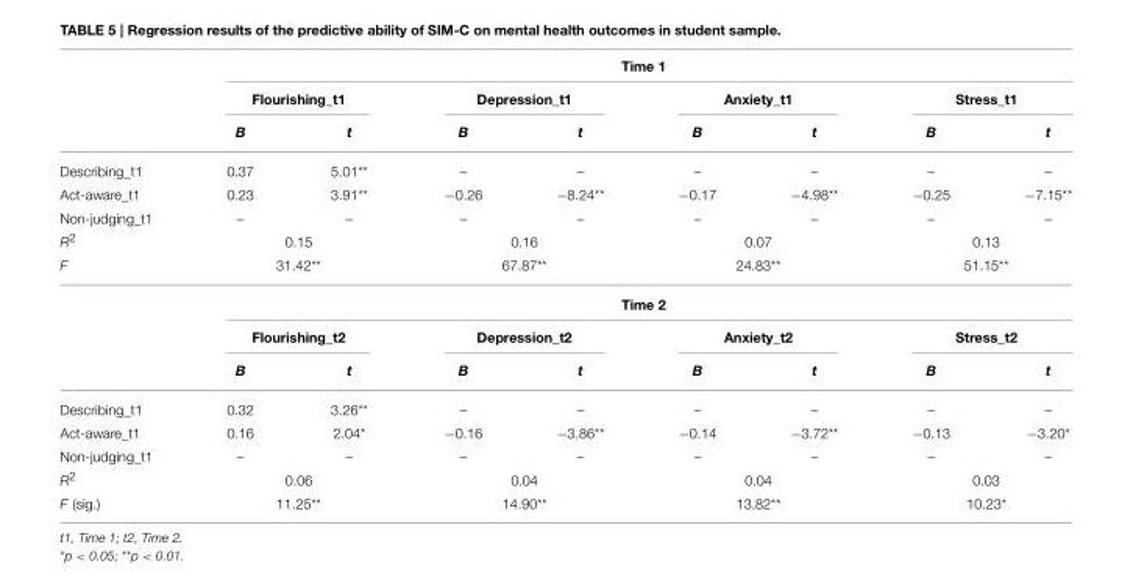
<table><thead><tr><td rowspan="3"></td><td colspan="8">Time 1</td></tr><tr><td colspan="2">Flourishing_t1</td><td colspan="2">Depression_t1</td><td colspan="2">Anxiety_t1</td><td colspan="2">Stress_t1</td></tr><tr><td>B</td><td>t</td><td>B</td><td>t</td><td>B</td><td>t</td><td>B</td><td>t</td></tr></thead><tbody><tr><td>Describing_t1</td><td>0.37</td><td>5.01**</td><td>–</td><td>–</td><td>–</td><td>–</td><td>–</td><td>–</td></tr><tr><td>Act-aware_t1</td><td>0.23</td><td>3.91**</td><td>−0.26</td><td>−8.24**</td><td>−0.17</td><td>−4.98**</td><td>−0.25</td><td>−7.15**</td></tr><tr><td>Non-judging_t1</td><td>–</td><td>–</td><td>–</td><td>–</td><td>–</td><td>–</td><td>–</td><td>–</td></tr><tr><td>R<sup>2</sup></td><td colspan="2">0.15</td><td colspan="2">0.16</td><td colspan="2">0.07</td><td colspan="2">0.13</td></tr><tr><td rowspan="4">F</td><td colspan="2">31.42**</td><td colspan="2">67.87**</td><td colspan="2">24.83**</td><td colspan="2">51.15**</td></tr><tr><td colspan="8">Time 2</td></tr><tr><td colspan="2">Flourishing_t2</td><td colspan="2">Depression_t2</td><td colspan="2">Anxiety_t2</td><td colspan="2">Stress_t2</td></tr><tr><td>B</td><td>t</td><td>B</td><td>t</td><td>B</td><td>t</td><td>B</td><td>t</td></tr><tr><td>Describing_t1</td><td>0.32</td><td>3.26**</td><td>–</td><td>–</td><td>–</td><td>–</td><td>–</td><td>–</td></tr><tr><td>Act-aware_t1</td><td>0.16</td><td>2.04*</td><td>−0.16</td><td>−3.86**</td><td>−0.14</td><td>−3.72**</td><td>−0.13</td><td>−3.20*</td></tr><tr><td>Non-judging_t1</td><td>–</td><td>–</td><td>–</td><td>–</td><td>–</td><td>–</td><td>–</td><td>–</td></tr><tr><td>R<sup>2</sup></td><td colspan="2">0.06</td><td colspan="2">0.04</td><td colspan="2">0.04</td><td colspan="2">0.03</td></tr><tr><td>F (sig.)</td><td colspan="2">11.25**</td><td colspan="2">14.90**</td><td colspan="2">13.82**</td><td colspan="2">10.23*</td></tr></tbody></table>